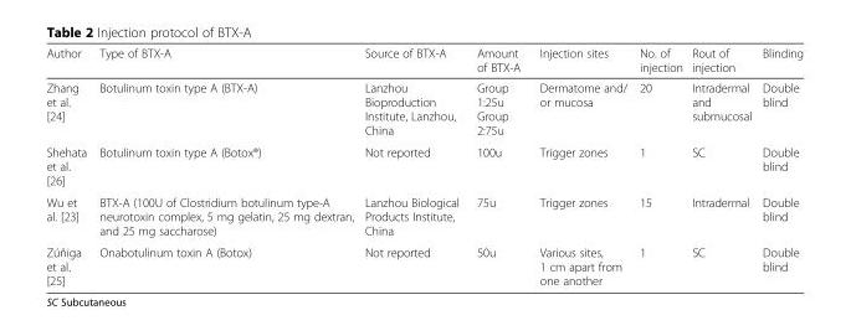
<table><thead><tr><td>Author</td><td>Type of BTX-A</td><td>Source of BTX-A</td><td>Amount of BTX-A</td><td>Injection sites</td><td>No. of injection</td><td>Rout of injection</td><td>Blinding</td></tr></thead><tbody><tr><td>Zhang et al. [24]</td><td>Botulinum toxin type A (BTX-A)</td><td>Lanzhou Bioproduction Institute, Lanzhou, China</td><td>Group 1:25u Group 2:75u</td><td>Dermatome and/ or mucosa</td><td>20</td><td>Intradermal and submucosal</td><td>Double blind</td></tr><tr><td>Shehata et al. [26]</td><td>Botulinum toxin type A (Botox®)</td><td>Not reported</td><td>100u</td><td>Trigger zones</td><td>1</td><td>SC</td><td>Double blind</td></tr><tr><td>Wu et al. [23]</td><td>BTX-A (100U of Clostridium botulinum type-A neurotoxin complex, 5 mg gelatin, 25 mg dextran, and 25 mg saccharose)</td><td>Lanzhou Biological Products Institute, China</td><td>75u</td><td>Trigger zones</td><td>15</td><td>Intradermal</td><td>Double blind</td></tr><tr><td>Zúñiga et al. [25]</td><td>Onabotulinum toxin A (Botox)</td><td>Not reported</td><td>50u</td><td>Various sites, 1 cm apart from one another</td><td>1</td><td>SC</td><td>Double blind</td></tr></tbody></table>